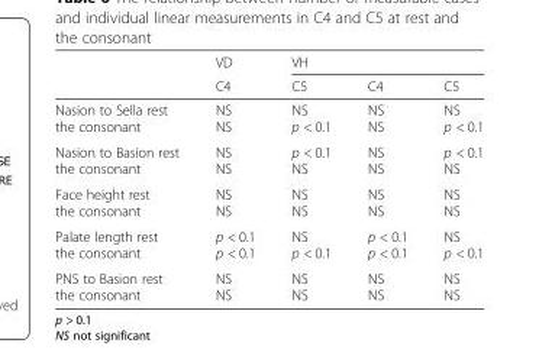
<table><thead><tr><td rowspan="2"></td><td rowspan="2">VD C4</td><td colspan="3">VH</td></tr><tr><td>C5</td><td>C4</td><td>C5</td></tr></thead><tbody><tr><td>Nasion to Sella rest the consonant</td><td>NS NS</td><td>NS p &lt; 0.1</td><td>NS NS</td><td>NS p &lt; 0.1</td></tr><tr><td>Nasion to Basion rest the consonant</td><td>NS NS</td><td>p &lt; 0.1 NS</td><td>NS NS</td><td>p &lt; 0.1 NS</td></tr><tr><td>Face height rest the consonant</td><td>NS NS</td><td>NS NS</td><td>NS NS</td><td>NS NS</td></tr><tr><td>Palate length rest the consonant</td><td>p &lt; 0.1 p &lt; 0.1</td><td>NS p &lt; 0.1</td><td>p &lt; 0.1 p &lt; 0.1</td><td>NS p &lt; 0.1</td></tr><tr><td>PNS to Basion rest the consonant</td><td>NS NS</td><td>NS NS</td><td>NS NS</td><td>NS NS</td></tr></tbody></table>